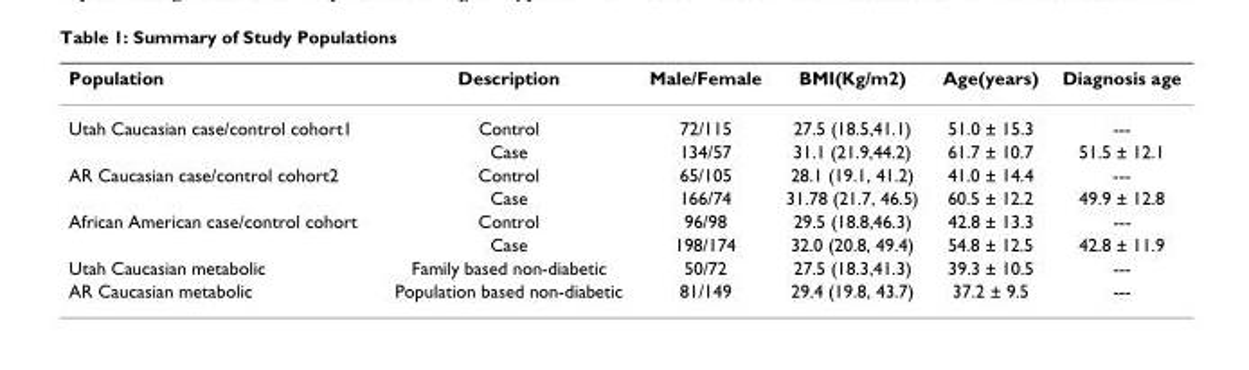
<table><thead><tr><td>Population</td><td>Description</td><td>Male/Female</td><td>BMI(Kg/m2)</td><td>Age(years)</td><td>Diagnosis age</td></tr></thead><tbody><tr><td rowspan="2">Utah Caucasian case/control cohort1</td><td>Control</td><td>72/115</td><td>27.5 (18.5,41.1)</td><td>51.0 ± 15.3</td><td>---</td></tr><tr><td>Case</td><td>134/57</td><td>31.1 (21.9,44.2)</td><td>61.7 ± 10.7</td><td>51.5 ± 12.1</td></tr><tr><td rowspan="2">AR Caucasian case/control cohort2</td><td>Control</td><td>65/105</td><td>28.1 (19.1, 41.2)</td><td>41.0 ± 14.4</td><td>---</td></tr><tr><td>Case</td><td>166/74</td><td>31.78 (21.7, 46.5)</td><td>60.5 ± 12.2</td><td>49.9 ± 12.8</td></tr><tr><td rowspan="2">African American case/control cohort</td><td>Control</td><td>96/98</td><td>29.5 (18.8,46.3)</td><td>42.8 ± 13.3</td><td>---</td></tr><tr><td>Case</td><td>198/174</td><td>32.0 (20.8, 49.4)</td><td>54.8 ± 12.5</td><td>42.8 ± 11.9</td></tr><tr><td>Utah Caucasian metabolic</td><td>Family based non-diabetic</td><td>50/72</td><td>27.5 (18.3,41.3)</td><td>39.3 ± 10.5</td><td>---</td></tr><tr><td>AR Caucasian metabolic</td><td>Population based non-diabetic</td><td>81/149</td><td>29.4 (19.8, 43.7)</td><td>37.2 ± 9.5</td><td>---</td></tr></tbody></table>